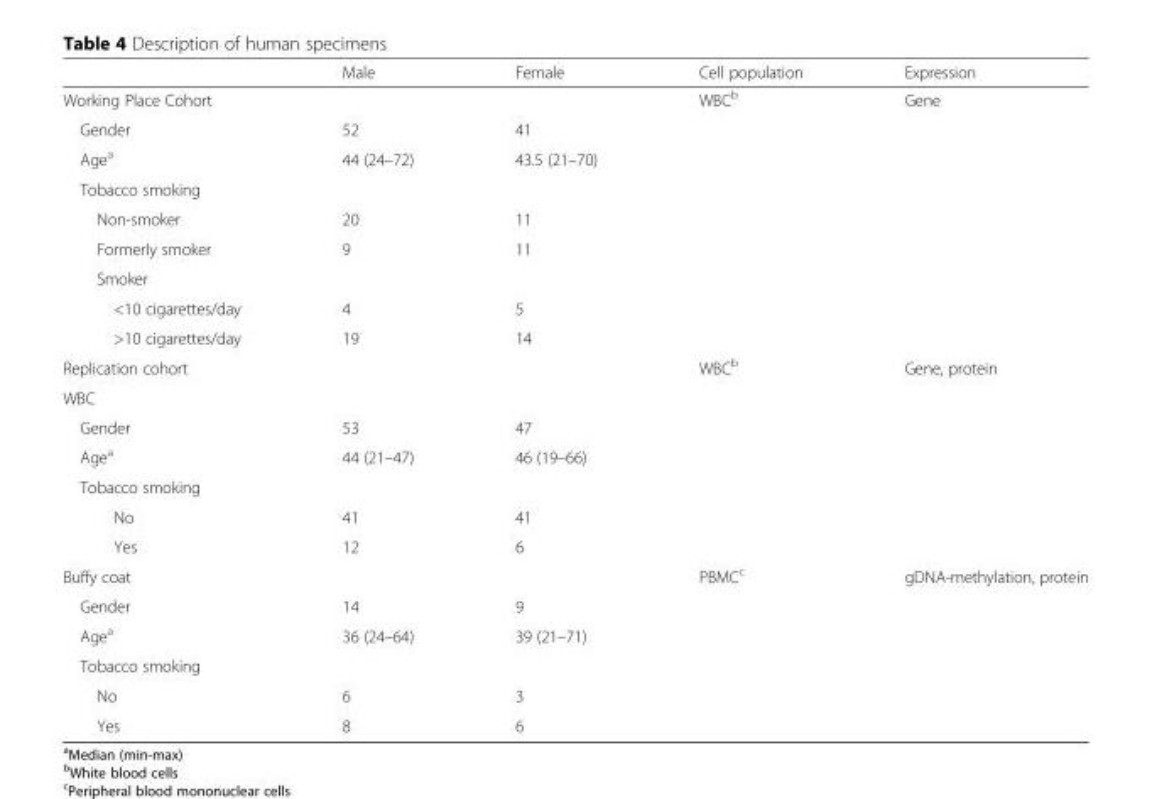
<table><thead><tr><td></td><td>Male</td><td>Female</td><td>Cell population</td><td>Expression</td></tr></thead><tbody><tr><td colspan="3">Working Place Cohort</td><td>WBC<sup>b</sup></td><td>Gene</td></tr><tr><td>Gender</td><td>52</td><td>41</td><td></td><td></td></tr><tr><td>Age<sup>a</sup></td><td>44 (24–72)</td><td>43.5 (21–70)</td><td></td><td></td></tr><tr><td colspan="5">Tobacco smoking</td></tr><tr><td>Non-smoker</td><td>20</td><td>11</td><td></td><td></td></tr><tr><td>Formerly smoker</td><td>9</td><td>11</td><td></td><td></td></tr><tr><td colspan="5">Smoker</td></tr><tr><td>&lt;10 cigarettes/day</td><td>4</td><td>5</td><td></td><td></td></tr><tr><td>&gt;10 cigarettes/day</td><td>19</td><td>14</td><td></td><td></td></tr><tr><td colspan="3">Replication cohort</td><td>WBC<sup>b</sup></td><td>Gene, protein</td></tr><tr><td colspan="5">WBC</td></tr><tr><td>Gender</td><td>53</td><td>47</td><td></td><td></td></tr><tr><td>Age<sup>a</sup></td><td>44 (21–47)</td><td>46 (19–66)</td><td></td><td></td></tr><tr><td colspan="5">Tobacco smoking</td></tr><tr><td>No</td><td>41</td><td>41</td><td></td><td></td></tr><tr><td>Yes</td><td>12</td><td>6</td><td></td><td></td></tr><tr><td>Buffy coat</td><td></td><td></td><td>PBMC<sup>c</sup></td><td>gDNA-methylation, protein</td></tr><tr><td>Gender</td><td>14</td><td>9</td><td></td><td></td></tr><tr><td>Age<sup>a</sup></td><td>36 (24–64)</td><td>39 (21–71)</td><td></td><td></td></tr><tr><td colspan="5">Tobacco smoking</td></tr><tr><td>No</td><td>6</td><td>3</td><td></td><td></td></tr><tr><td>Yes</td><td>8</td><td>6</td><td></td><td></td></tr></tbody></table>